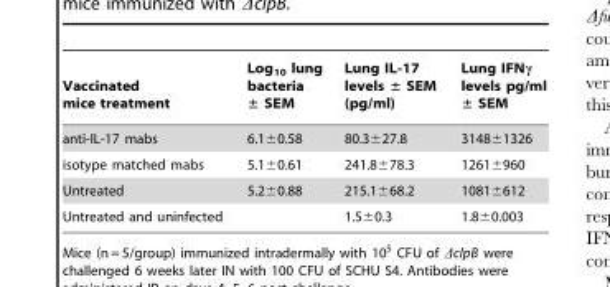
<table><thead><tr><td>Vaccinated mice treatment</td><td>Log<sub>10</sub> lung bacteria ± SEM</td><td>Lung IL-17 levels ± SEM (pg/ml)</td><td>Lung IFNγ levels pg/ml ± SEM</td></tr></thead><tbody><tr><td>anti-IL-17 mabs</td><td>6.1±0.58</td><td>80.3±27.8</td><td>3148±1326</td></tr><tr><td>isotype matched mabs</td><td>5.1±0.61</td><td>241.8±78.3</td><td>1261±960</td></tr><tr><td>Untreated</td><td>5.2±0.88</td><td>215.1±68.2</td><td>1081±612</td></tr><tr><td>Untreated and uninfected</td><td></td><td>1.5±0.3</td><td>1.8±0.003</td></tr></tbody></table>